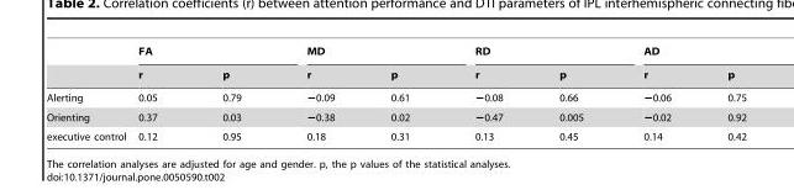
<table><thead><tr><td rowspan="2"></td><td colspan="2">FA</td><td colspan="2">MD</td><td colspan="2">RD</td><td colspan="2">AD</td></tr><tr><td>r</td><td>p</td><td>r</td><td>p</td><td>r</td><td>p</td><td>r</td><td>p</td></tr></thead><tbody><tr><td>Alerting</td><td>0.05</td><td>0.79</td><td>−0.09</td><td>0.61</td><td>−0.08</td><td>0.66</td><td>−0.06</td><td>0.75</td></tr><tr><td>Orienting</td><td>0.37</td><td>0.03</td><td>−0.38</td><td>0.02</td><td>−0.47</td><td>0.005</td><td>−0.02</td><td>0.92</td></tr><tr><td>executive control</td><td>0.12</td><td>0.95</td><td>0.18</td><td>0.31</td><td>0.13</td><td>0.45</td><td>0.14</td><td>0.42</td></tr></tbody></table>